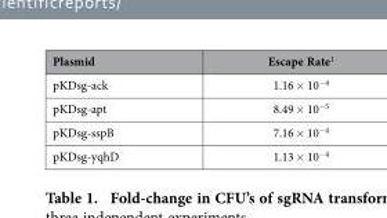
<table><thead><tr><td>Plasmid</td><td>Escape Rate<sup>1</sup></td></tr></thead><tbody><tr><td>pKDsg-ack</td><td>1.16 × 10<sup>−4</sup></td></tr><tr><td>pKDsg-apt</td><td>8.49 × 10<sup>−5</sup></td></tr><tr><td>pKDsg-sspB</td><td>7.16 × 10<sup>−4</sup></td></tr><tr><td>pKDsg-yqhD</td><td>1.13 × 10<sup>−4</sup></td></tr></tbody></table>